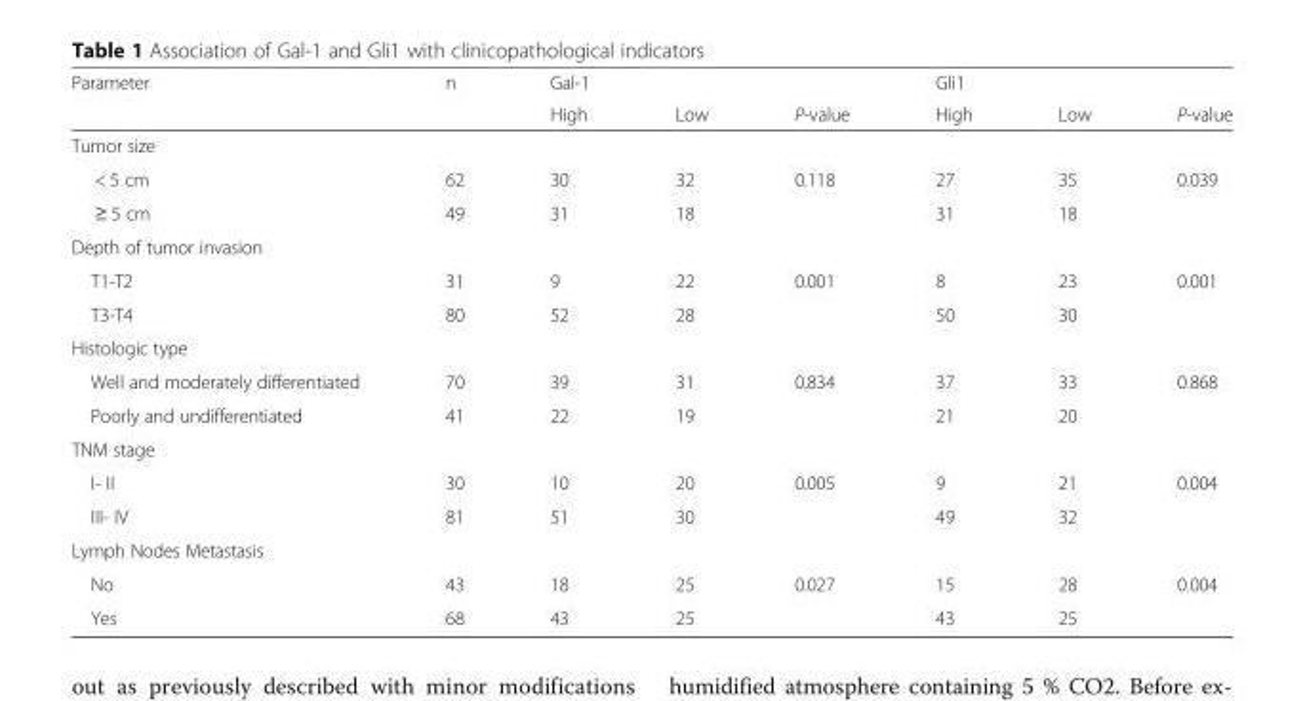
<table><thead><tr><td rowspan="2">Parameter</td><td rowspan="2">n</td><td rowspan="2">Gal-1 High</td><td rowspan="2">Low</td><td rowspan="2">P-value</td><td rowspan="2">Gli1 High</td><td rowspan="2">Low</td><td rowspan="2">P-value</td></tr><tr></tr></thead><tbody><tr><td colspan="8">Tumor size</td></tr><tr><td>&lt; 5 cm</td><td>62</td><td>30</td><td>32</td><td>0.118</td><td>27</td><td>35</td><td>0.039</td></tr><tr><td>≥ 5 cm</td><td>49</td><td>31</td><td>18</td><td></td><td>31</td><td>18</td><td></td></tr><tr><td colspan="8">Depth of tumor invasion</td></tr><tr><td>T1-T2</td><td>31</td><td>9</td><td>22</td><td>0.001</td><td>8</td><td>23</td><td>0.001</td></tr><tr><td>T3-T4</td><td>80</td><td>52</td><td>28</td><td></td><td>50</td><td>30</td><td></td></tr><tr><td colspan="8">Histologic type</td></tr><tr><td>Well and moderately differentiated</td><td>70</td><td>39</td><td>31</td><td>0.834</td><td>37</td><td>33</td><td>0.868</td></tr><tr><td>Poorly and undifferentiated</td><td>41</td><td>22</td><td>19</td><td></td><td>21</td><td>20</td><td></td></tr><tr><td colspan="8">TNM stage</td></tr><tr><td>I- II</td><td>30</td><td>10</td><td>20</td><td>0.005</td><td>9</td><td>21</td><td>0.004</td></tr><tr><td>III- IV</td><td>81</td><td>51</td><td>30</td><td></td><td>49</td><td>32</td><td></td></tr><tr><td colspan="8">Lymph Nodes Metastasis</td></tr><tr><td>No</td><td>43</td><td>18</td><td>25</td><td>0.027</td><td>15</td><td>28</td><td>0.004</td></tr><tr><td>Yes</td><td>68</td><td>43</td><td>25</td><td></td><td>43</td><td>25</td><td></td></tr></tbody></table>